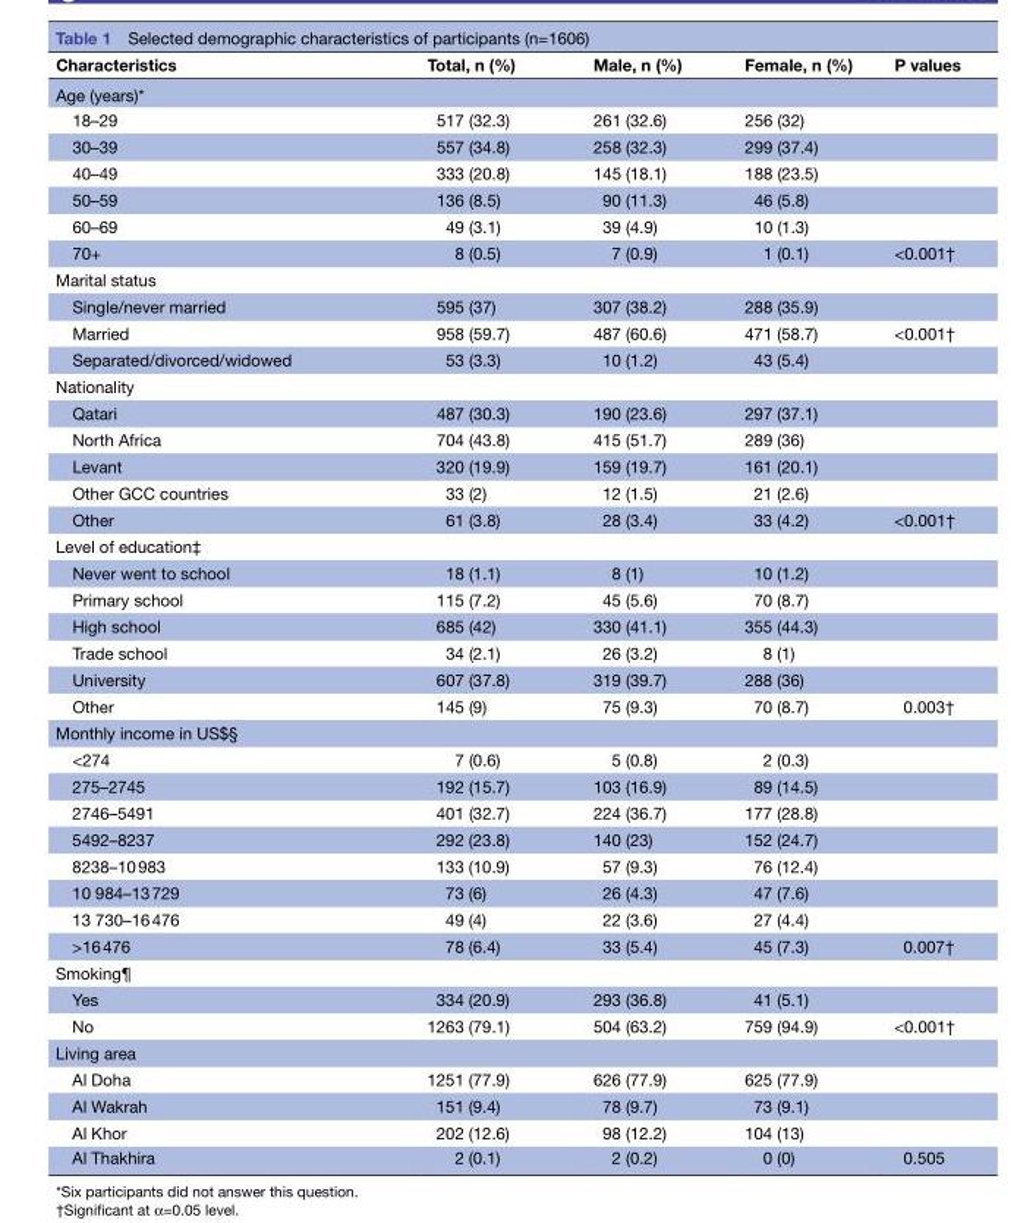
<table><thead><tr><td>Characteristics</td><td>Total, n (%)</td><td>Male, n (%)</td><td>Female, n (%)</td><td>P values</td></tr></thead><tbody><tr><td colspan="5">Age (years)*</td></tr><tr><td>18–29</td><td>517 (32.3)</td><td>261 (32.6)</td><td>256 (32)</td><td></td></tr><tr><td>30–39</td><td>557 (34.8)</td><td>258 (32.3)</td><td>299 (37.4)</td><td></td></tr><tr><td>40–49</td><td>333 (20.8)</td><td>145 (18.1)</td><td>188 (23.5)</td><td></td></tr><tr><td>50–59</td><td>136 (8.5)</td><td>90 (11.3)</td><td>46 (5.8)</td><td></td></tr><tr><td>60–69</td><td>49 (3.1)</td><td>39 (4.9)</td><td>10 (1.3)</td><td></td></tr><tr><td>70+</td><td>8 (0.5)</td><td>7 (0.9)</td><td>1 (0.1)</td><td>&lt;0.001†</td></tr><tr><td colspan="5">Marital status</td></tr><tr><td>Single/never married</td><td>595 (37)</td><td>307 (38.2)</td><td>288 (35.9)</td><td></td></tr><tr><td>Married</td><td>958 (59.7)</td><td>487 (60.6)</td><td>471 (58.7)</td><td>&lt;0.001†</td></tr><tr><td>Separated/divorced/widowed</td><td>53 (3.3)</td><td>10 (1.2)</td><td>43 (5.4)</td><td></td></tr><tr><td colspan="5">Nationality</td></tr><tr><td>Qatari</td><td>487 (30.3)</td><td>190 (23.6)</td><td>297 (37.1)</td><td></td></tr><tr><td>North Africa</td><td>704 (43.8)</td><td>415 (51.7)</td><td>289 (36)</td><td></td></tr><tr><td>Levant</td><td>320 (19.9)</td><td>159 (19.7)</td><td>161 (20.1)</td><td></td></tr><tr><td>Other GCC countries</td><td>33 (2)</td><td>12 (1.5)</td><td>21 (2.6)</td><td></td></tr><tr><td>Other</td><td>61 (3.8)</td><td>28 (3.4)</td><td>33 (4.2)</td><td>&lt;0.001†</td></tr><tr><td colspan="5">Level of education‡</td></tr><tr><td>Never went to school</td><td>18 (1.1)</td><td>8 (1)</td><td>10 (1.2)</td><td></td></tr><tr><td>Primary school</td><td>115 (7.2)</td><td>45 (5.6)</td><td>70 (8.7)</td><td></td></tr><tr><td>High school</td><td>685 (42)</td><td>330 (41.1)</td><td>355 (44.3)</td><td></td></tr><tr><td>Trade school</td><td>34 (2.1)</td><td>26 (3.2)</td><td>8 (1)</td><td></td></tr><tr><td>University</td><td>607 (37.8)</td><td>319 (39.7)</td><td>288 (36)</td><td></td></tr><tr><td>Other</td><td>145 (9)</td><td>75 (9.3)</td><td>70 (8.7)</td><td>0.003†</td></tr><tr><td colspan="5">Monthly income in US$§</td></tr><tr><td>&lt;274</td><td>7 (0.6)</td><td>5 (0.8)</td><td>2 (0.3)</td><td></td></tr><tr><td>275–2745</td><td>192 (15.7)</td><td>103 (16.9)</td><td>89 (14.5)</td><td></td></tr><tr><td>2746–5491</td><td>401 (32.7)</td><td>224 (36.7)</td><td>177 (28.8)</td><td></td></tr><tr><td>5492–8237</td><td>292 (23.8)</td><td>140 (23)</td><td>152 (24.7)</td><td></td></tr><tr><td>8238–10 983</td><td>133 (10.9)</td><td>57 (9.3)</td><td>76 (12.4)</td><td></td></tr><tr><td>10 984–13 729</td><td>73 (6)</td><td>26 (4.3)</td><td>47 (7.6)</td><td></td></tr><tr><td>13 730–16 476</td><td>49 (4)</td><td>22 (3.6)</td><td>27 (4.4)</td><td></td></tr><tr><td>&gt;16 476</td><td>78 (6.4)</td><td>33 (5.4)</td><td>45 (7.3)</td><td>0.007†</td></tr><tr><td colspan="5">Smoking¶</td></tr><tr><td>Yes</td><td>334 (20.9)</td><td>293 (36.8)</td><td>41 (5.1)</td><td></td></tr><tr><td>No</td><td>1263 (79.1)</td><td>504 (63.2)</td><td>759 (94.9)</td><td>&lt;0.001†</td></tr><tr><td colspan="5">Living area</td></tr><tr><td>Al Doha</td><td>1251 (77.9)</td><td>626 (77.9)</td><td>625 (77.9)</td><td></td></tr><tr><td>Al Wakrah</td><td>151 (9.4)</td><td>78 (9.7)</td><td>73 (9.1)</td><td></td></tr><tr><td>Al Khor</td><td>202 (12.6)</td><td>98 (12.2)</td><td>104 (13)</td><td></td></tr><tr><td>Al Thakhira</td><td>2 (0.1)</td><td>2 (0.2)</td><td>0 (0)</td><td>0.505</td></tr></tbody></table>